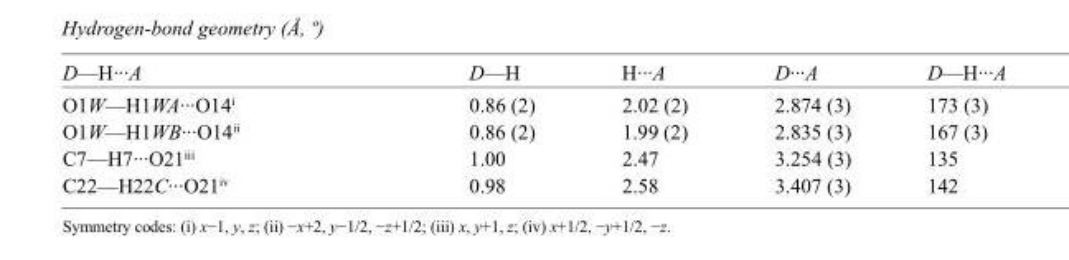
<table><tbody><tr><td>D—H···A</td><td>D—H</td><td>H···A</td><td>D···A</td><td>D—H···A</td></tr><tr><td>O1W—H1WA···O14<sup>i</sup></td><td>0.86 (2)</td><td>2.02 (2)</td><td>2.874 (3)</td><td>173 (3)</td></tr><tr><td>O1W—H1WB···O14<sup>ii</sup></td><td>0.86 (2)</td><td>1.99 (2)</td><td>2.835 (3)</td><td>167 (3)</td></tr><tr><td>C7—H7···O21<sup>iii</sup></td><td>1.00</td><td>2.47</td><td>3.254 (3)</td><td>135</td></tr><tr><td>C22—H22C···O21<sup>iv</sup></td><td>0.98</td><td>2.58</td><td>3.407 (3)</td><td>142</td></tr></tbody></table>